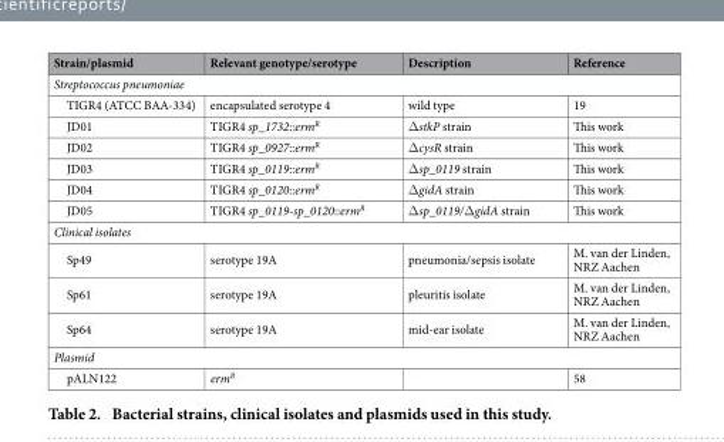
<table><thead><tr><td>Strain/plasmid</td><td>Relevant genotype/serotype</td><td>Description</td><td>Reference</td></tr></thead><tbody><tr><td colspan="4">Streptococcus pneumoniae</td></tr><tr><td>TIGR4 (ATCC BAA-334)</td><td>encapsulated serotype 4</td><td>wild type</td><td>19</td></tr><tr><td>JD01</td><td>TIGR4 sp_1732::erm<sup>R</sup></td><td>Δ stkP strain</td><td>This work</td></tr><tr><td>JD02</td><td>TIGR4 sp_0927::erm<sup>R</sup></td><td>Δ cysR strain</td><td>This work</td></tr><tr><td>JD03</td><td>TIGR4 sp_0119::erm<sup>R</sup></td><td>Δ sp_0119 strain</td><td>This work</td></tr><tr><td>JD04</td><td>TIGR4 sp_0120::erm<sup>R</sup></td><td>Δ gidA strain</td><td>This work</td></tr><tr><td>JD05</td><td>TIGR4 sp_0119-sp_0120::erm<sup>R</sup></td><td>Δ sp_0119/Δ gidA strain</td><td>This work</td></tr><tr><td colspan="4">Clinical isolates</td></tr><tr><td>Sp49</td><td>serotype 19A</td><td>pneumonia/sepsis isolate</td><td>M. van der Linden, NRZ Aachen</td></tr><tr><td>Sp61</td><td>serotype 19A</td><td>pleuritis isolate</td><td>M. van der Linden, NRZ Aachen</td></tr><tr><td>Sp64</td><td>serotype 19A</td><td>mid-ear isolate</td><td>M. van der Linden, NRZ Aachen</td></tr><tr><td colspan="4">Plasmid</td></tr><tr><td>pALN122</td><td>erm<sup>R</sup></td><td></td><td>58</td></tr></tbody></table>